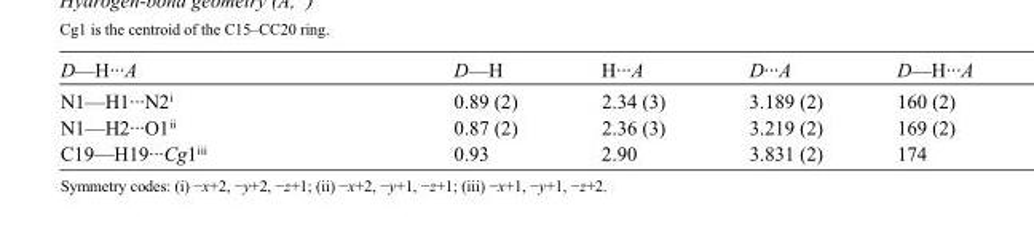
<table><tbody><tr><td>D—H···A</td><td>D—H</td><td>H···A</td><td>D···A</td><td>D—H···A</td></tr><tr><td>N1—H1···N2<sup>i</sup></td><td>0.89 (2)</td><td>2.34 (3)</td><td>3.189 (2)</td><td>160 (2)</td></tr><tr><td>N1—H2···O1<sup>ii</sup></td><td>0.87 (2)</td><td>2.36 (3)</td><td>3.219 (2)</td><td>169 (2)</td></tr><tr><td>C19—H19···Cg1<sup>iii</sup></td><td>0.93</td><td>2.90</td><td>3.831 (2)</td><td>174</td></tr></tbody></table>